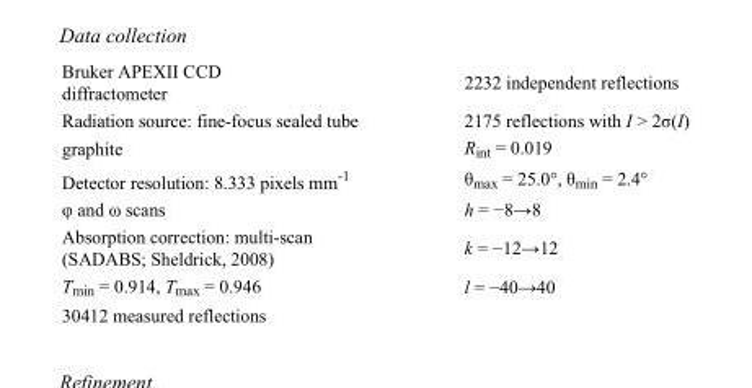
<table><tbody><tr><td>Bruker APEXII CCD diffractometer</td><td>2232 independent reflections</td></tr><tr><td>Radiation source: fine-focus sealed tube</td><td>2175 reflections with I &gt; 2σ(I)</td></tr><tr><td>graphite</td><td>R<sub>int</sub> = 0.019</td></tr><tr><td>Detector resolution: 8.333 pixels mm<sup>-1</sup></td><td>θ<sub>max</sub> = 25.0°, θ<sub>min</sub> = 2.4°</td></tr><tr><td>φ and ω scans</td><td>h = −8→8</td></tr><tr><td>Absorption correction: multi-scan (SADABS; Sheldrick, 2008)</td><td>k = −12→12</td></tr><tr><td>T<sub>min</sub> = 0.914, T<sub>max</sub> = 0.946</td><td>l = −40→40</td></tr><tr><td>30412 measured reflections</td><td></td></tr></tbody></table>